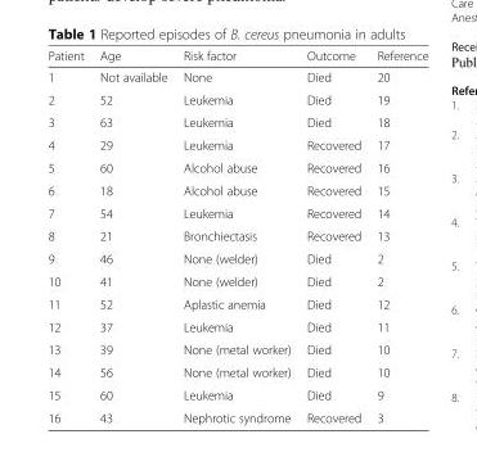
<table><thead><tr><td>Patient</td><td>Age</td><td>Risk factor</td><td>Outcome</td><td>Reference</td></tr></thead><tbody><tr><td>1</td><td>Not available</td><td>None</td><td>Died</td><td>20</td></tr><tr><td>2</td><td>52</td><td>Leukemia</td><td>Died</td><td>19</td></tr><tr><td>3</td><td>63</td><td>Leukemia</td><td>Died</td><td>18</td></tr><tr><td>4</td><td>29</td><td>Leukemia</td><td>Recovered</td><td>17</td></tr><tr><td>5</td><td>60</td><td>Alcohol abuse</td><td>Recovered</td><td>16</td></tr><tr><td>6</td><td>18</td><td>Alcohol abuse</td><td>Recovered</td><td>15</td></tr><tr><td>7</td><td>54</td><td>Leukemia</td><td>Recovered</td><td>14</td></tr><tr><td>8</td><td>21</td><td>Bronchiectasis</td><td>Recovered</td><td>13</td></tr><tr><td>9</td><td>46</td><td>None (welder)</td><td>Died</td><td>2</td></tr><tr><td>10</td><td>41</td><td>None (welder)</td><td>Died</td><td>2</td></tr><tr><td>11</td><td>52</td><td>Aplastic anemia</td><td>Died</td><td>12</td></tr><tr><td>12</td><td>37</td><td>Leukemia</td><td>Died</td><td>11</td></tr><tr><td>13</td><td>39</td><td>None (metal worker)</td><td>Died</td><td>10</td></tr><tr><td>14</td><td>56</td><td>None (metal worker)</td><td>Died</td><td>10</td></tr><tr><td>15</td><td>60</td><td>Leukemia</td><td>Died</td><td>9</td></tr><tr><td>16</td><td>43</td><td>Nephrotic syndrome</td><td>Recovered</td><td>3</td></tr></tbody></table>